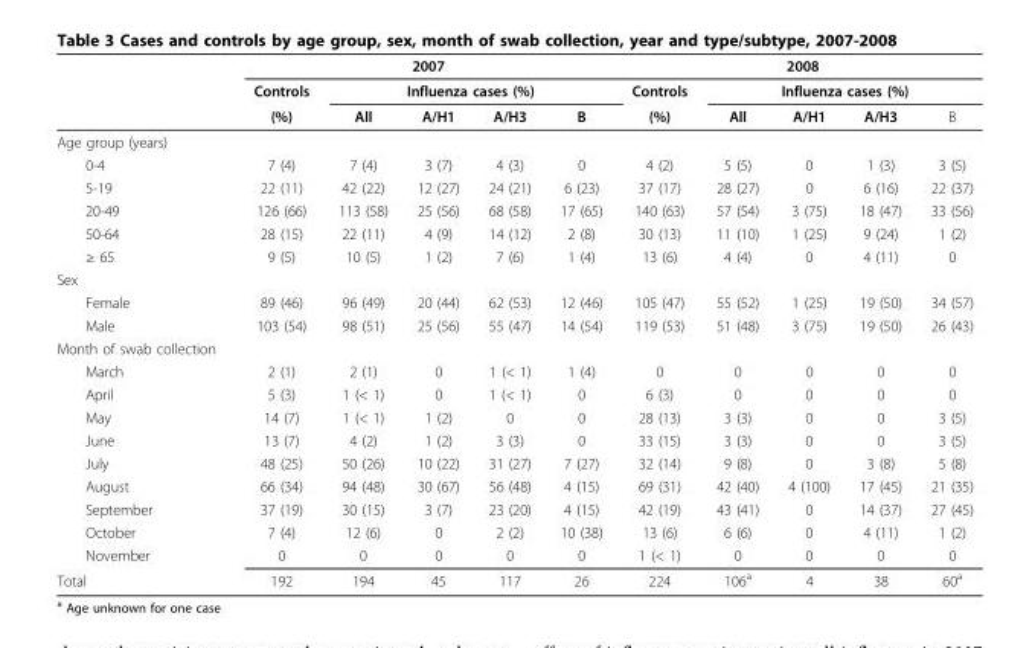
<table><thead><tr><td rowspan="3"></td><td colspan="5">2007</td><td colspan="5">2008</td></tr><tr><td rowspan="2">Controls (%)</td><td colspan="4">Influenza cases (%)</td><td rowspan="2">Controls (%)</td><td colspan="4">Influenza cases (%)</td></tr><tr><td>All</td><td>A/H1</td><td>A/H3</td><td>B</td><td>All</td><td>A/H1</td><td>A/H3</td><td>B</td></tr></thead><tbody><tr><td colspan="11">Age group (years)</td></tr><tr><td>0-4</td><td>7 (4)</td><td>7 (4)</td><td>3 (7)</td><td>4 (3)</td><td>0</td><td>4 (2)</td><td>5 (5)</td><td>0</td><td>1 (3)</td><td>3 (5)</td></tr><tr><td>5-19</td><td>22 (11)</td><td>42 (22)</td><td>12 (27)</td><td>24 (21)</td><td>6 (23)</td><td>37 (17)</td><td>28 (27)</td><td>0</td><td>6 (16)</td><td>22 (37)</td></tr><tr><td>20-49</td><td>126 (66)</td><td>113 (58)</td><td>25 (56)</td><td>68 (58)</td><td>17 (65)</td><td>140 (63)</td><td>57 (54)</td><td>3 (75)</td><td>18 (47)</td><td>33 (56)</td></tr><tr><td>50-64</td><td>28 (15)</td><td>22 (11)</td><td>4 (9)</td><td>14 (12)</td><td>2 (8)</td><td>30 (13)</td><td>11 (10)</td><td>1 (25)</td><td>9 (24)</td><td>1 (2)</td></tr><tr><td>≥ 65</td><td>9 (5)</td><td>10 (5)</td><td>1 (2)</td><td>7 (6)</td><td>1 (4)</td><td>13 (6)</td><td>4 (4)</td><td>0</td><td>4 (11)</td><td>0</td></tr><tr><td colspan="11">Sex</td></tr><tr><td>Female</td><td>89 (46)</td><td>96 (49)</td><td>20 (44)</td><td>62 (53)</td><td>12 (46)</td><td>105 (47)</td><td>55 (52)</td><td>1 (25)</td><td>19 (50)</td><td>34 (57)</td></tr><tr><td>Male</td><td>103 (54)</td><td>98 (51)</td><td>25 (56)</td><td>55 (47)</td><td>14 (54)</td><td>119 (53)</td><td>51 (48)</td><td>3 (75)</td><td>19 (50)</td><td>26 (43)</td></tr><tr><td colspan="11">Month of swab collection</td></tr><tr><td>March</td><td>2 (1)</td><td>2 (1)</td><td>0</td><td>1 (&lt; 1)</td><td>1 (4)</td><td>0</td><td>0</td><td>0</td><td>0</td><td>0</td></tr><tr><td>April</td><td>5 (3)</td><td>1 (&lt; 1)</td><td>0</td><td>1 (&lt; 1)</td><td>0</td><td>6 (3)</td><td>0</td><td>0</td><td>0</td><td>0</td></tr><tr><td>May</td><td>14 (7)</td><td>1 (&lt; 1)</td><td>1 (2)</td><td>0</td><td>0</td><td>28 (13)</td><td>3 (3)</td><td>0</td><td>0</td><td>3 (5)</td></tr><tr><td>June</td><td>13 (7)</td><td>4 (2)</td><td>1 (2)</td><td>3 (3)</td><td>0</td><td>33 (15)</td><td>3 (3)</td><td>0</td><td>0</td><td>3 (5)</td></tr><tr><td>July</td><td>48 (25)</td><td>50 (26)</td><td>10 (22)</td><td>31 (27)</td><td>7 (27)</td><td>32 (14)</td><td>9 (8)</td><td>0</td><td>3 (8)</td><td>5 (8)</td></tr><tr><td>August</td><td>66 (34)</td><td>94 (48)</td><td>30 (67)</td><td>56 (48)</td><td>4 (15)</td><td>69 (31)</td><td>42 (40)</td><td>4 (100)</td><td>17 (45)</td><td>21 (35)</td></tr><tr><td>September</td><td>37 (19)</td><td>30 (15)</td><td>3 (7)</td><td>23 (20)</td><td>4 (15)</td><td>42 (19)</td><td>43 (41)</td><td>0</td><td>14 (37)</td><td>27 (45)</td></tr><tr><td>October</td><td>7 (4)</td><td>12 (6)</td><td>0</td><td>2 (2)</td><td>10 (38)</td><td>13 (6)</td><td>6 (6)</td><td>0</td><td>4 (11)</td><td>1 (2)</td></tr><tr><td>November</td><td>0</td><td>0</td><td>0</td><td>0</td><td>0</td><td>1 (&lt; 1)</td><td>0</td><td>0</td><td>0</td><td>0</td></tr><tr><td>Total</td><td>192</td><td>194</td><td>45</td><td>117</td><td>26</td><td>224</td><td>106<sup>a</sup></td><td>4</td><td>38</td><td>60<sup>a</sup></td></tr></tbody></table>